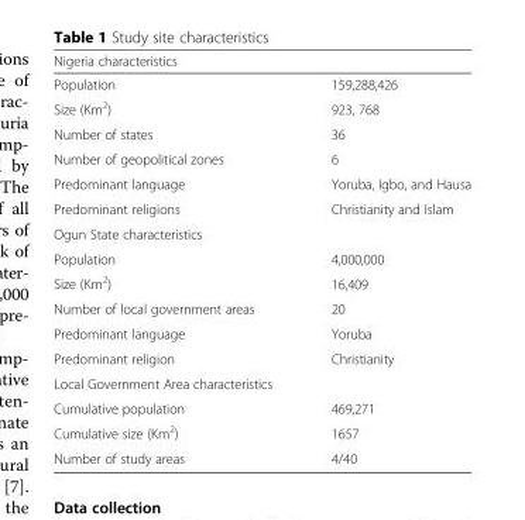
<table><thead><tr><td colspan="2">Nigeria characteristics</td></tr><tr><td>Population</td><td>159,288,426</td></tr></thead><tbody><tr><td>Size (Km<sup>2</sup>)</td><td>923, 768</td></tr><tr><td>Number of states</td><td>36</td></tr><tr><td>Number of geopolitical zones</td><td>6</td></tr><tr><td>Predominant language</td><td>Yoruba, Igbo, and Hausa</td></tr><tr><td>Predominant religions</td><td>Christianity and Islam</td></tr><tr><td colspan="2">Ogun State characteristics</td></tr><tr><td>Population</td><td>4,000,000</td></tr><tr><td>Size (Km<sup>2</sup>)</td><td>16,409</td></tr><tr><td>Number of local government areas</td><td>20</td></tr><tr><td>Predominant language</td><td>Yoruba</td></tr><tr><td>Predominant religion</td><td>Christianity</td></tr><tr><td colspan="2">Local Government Area characteristics</td></tr><tr><td>Cumulative population</td><td>469,271</td></tr><tr><td>Cumulative size (Km<sup>2</sup>)</td><td>1657</td></tr><tr><td>Number of study areas</td><td>4/40</td></tr></tbody></table>